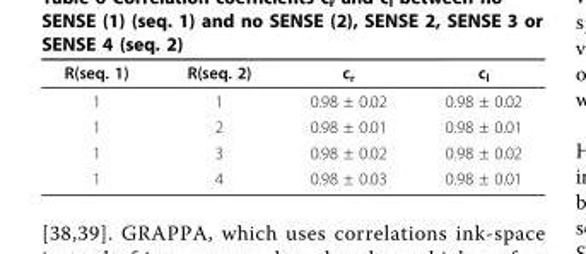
<table><thead><tr><td>R(seq. 1)</td><td>R(seq. 2)</td><td>c<sub>r</sub></td><td>c<sub>l</sub></td></tr></thead><tbody><tr><td>1</td><td>1</td><td>0.98 ± 0.02</td><td>0.98 ± 0.02</td></tr><tr><td>1</td><td>2</td><td>0.98 ± 0.01</td><td>0.98 ± 0.01</td></tr><tr><td>1</td><td>3</td><td>0.98 ± 0.02</td><td>0.98 ± 0.02</td></tr><tr><td>1</td><td>4</td><td>0.98 ± 0.03</td><td>0.98 ± 0.01</td></tr></tbody></table>